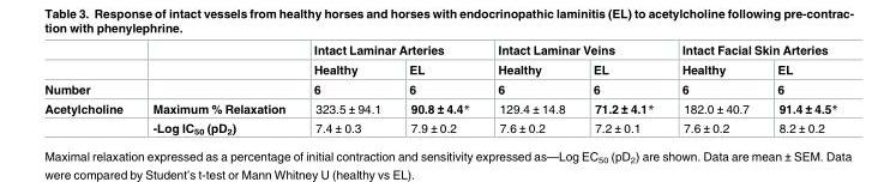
<table><thead><tr><td rowspan="3">Number</td><td rowspan="3"></td><td colspan="2">Intact Laminar Arteries</td><td colspan="2">Intact Laminar Veins</td><td colspan="2">Intact Facial Skin Arteries</td></tr><tr><td rowspan="2">Healthy 6</td><td rowspan="2">EL 6</td><td rowspan="2">Healthy 6</td><td rowspan="2">EL 6</td><td rowspan="2">Healthy 6</td><td rowspan="2">EL 6</td></tr><tr></tr></thead><tbody><tr><td rowspan="2">Acetylcholine</td><td>Maximum % Relaxation</td><td>323.5 ± 94.1</td><td>90.8 ± 4.4*</td><td>129.4 ± 14.8</td><td>71.2 ± 4.1*</td><td>182.0 ± 40.7</td><td>91.4 ± 4.5*</td></tr><tr><td>-Log IC<sub>50</sub> (pD<sub>2</sub>)</td><td>7.4 ± 0.3</td><td>7.9 ± 0.2</td><td>7.6 ± 0.2</td><td>7.2 ± 0.1</td><td>7.6 ± 0.2</td><td>8.2 ± 0.2</td></tr></tbody></table>